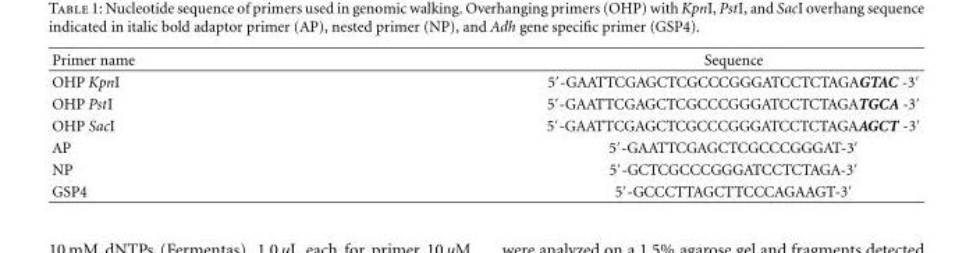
<table><thead><tr><td>Primer name</td><td>Sequence</td></tr></thead><tbody><tr><td>OHP KpnI</td><td>5′-GAATTCGAGCTCGCCCGGGATCCTCTAGAGTAC -3′</td></tr><tr><td>OHP PstI</td><td>5′-GAATTCGAGCTCGCCCGGGATCCTCTAGATGCA -3′</td></tr><tr><td>OHP SacI</td><td>5′-GAATTCGAGCTCGCCCGGGATCCTCTAGAAGCT -3′</td></tr><tr><td>AP</td><td>5′-GAATTCGAGCTCGCCCGGGAT-3′</td></tr><tr><td>NP</td><td>5′-GCTCGCCCGGGATCCTCTAGA-3′</td></tr><tr><td>GSP4</td><td>5′-GCCCTTAGCTTCCCAGAAGT-3′</td></tr></tbody></table>